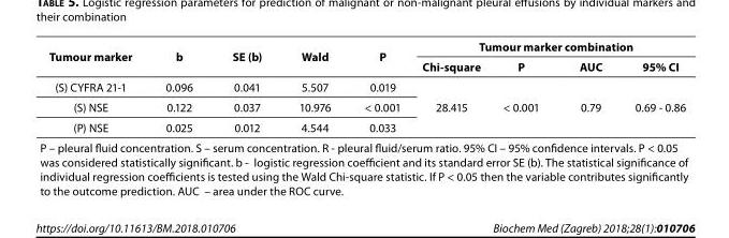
<table><thead><tr><td rowspan="2">Tumour marker</td><td rowspan="2">b</td><td rowspan="2">SE (b)</td><td rowspan="2">Wald</td><td rowspan="2">P</td><td colspan="4">Tumour marker combination</td></tr><tr><td>Chi-square</td><td>P</td><td>AUC</td><td>95% CI</td></tr></thead><tbody><tr><td>(S) CYFRA 21-1</td><td>0.096</td><td>0.041</td><td>5.507</td><td>0.019</td><td rowspan="3">28.415</td><td rowspan="3">&lt; 0.001</td><td rowspan="3">0.79</td><td rowspan="3">0.69 - 0.86</td></tr><tr><td>(S) NSE</td><td>0.122</td><td>0.037</td><td>10.976</td><td>&lt; 0.001</td></tr><tr><td>(P) NSE</td><td>0.025</td><td>0.012</td><td>4.544</td><td>0.033</td></tr><tr><td colspan="9">P – pleural fluid concentration. S – serum concentration. R - pleural fluid/serum ratio. 95% CI – 95% confidence intervals. P &lt; 0.05 was considered statistically significant. b - logistic regression coefficient and its standard error SE (b). The statistical significance of individual regression coefficients is tested using the Wald Chi-square statistic. If P &lt; 0.05 then the variable contributes significantly to the outcome prediction. AUC – area under the ROC curve.</td></tr></tbody></table>